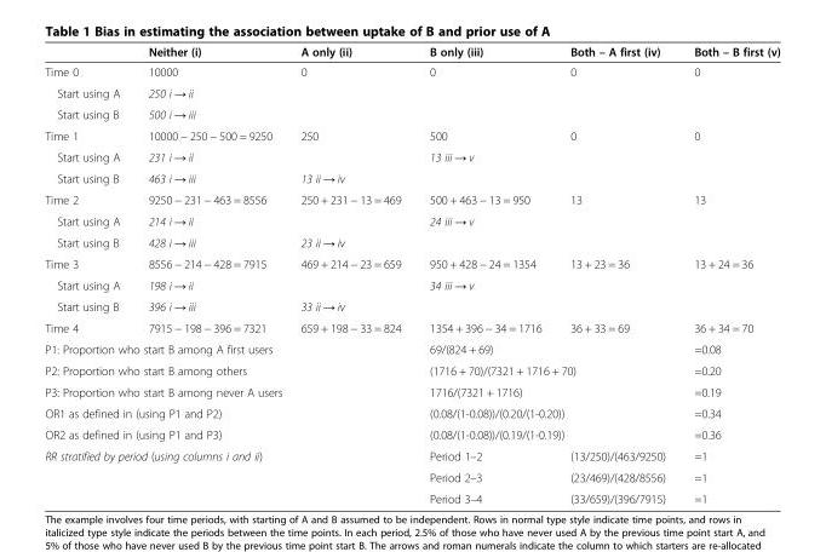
<table><thead><tr><td></td><td>Neither (i)</td><td>A only (ii)</td><td>B only (iii)</td><td>Both – A first (iv)</td><td>Both – B first (v)</td></tr></thead><tbody><tr><td>Time 0</td><td>10000</td><td>0</td><td>0</td><td>0</td><td>0</td></tr><tr><td>Start using A</td><td>250 i → ii</td><td></td><td></td><td></td><td></td></tr><tr><td>Start using B</td><td>500 i → iii</td><td></td><td></td><td></td><td></td></tr><tr><td>Time 1</td><td>10000 − 250 − 500 = 9250</td><td>250</td><td>500</td><td>0</td><td>0</td></tr><tr><td>Start using A</td><td>231 i → ii</td><td></td><td>13 iii → v</td><td></td><td></td></tr><tr><td>Start using B</td><td>463 i → iii</td><td>13 ii → iv</td><td></td><td></td><td></td></tr><tr><td>Time 2</td><td>9250 − 231 − 463 = 8556</td><td>250 + 231 − 13 = 469</td><td>500 + 463 − 13 = 950</td><td>13</td><td>13</td></tr><tr><td>Start using A</td><td>214 i → ii</td><td></td><td>24 iii → v</td><td></td><td></td></tr><tr><td>Start using B</td><td>428 i → iii</td><td>23 ii → iv</td><td></td><td></td><td></td></tr><tr><td>Time 3</td><td>8556 − 214 − 428 = 7915</td><td>469 + 214 − 23 = 659</td><td>950 + 428 − 24 = 1354</td><td>13 + 23 = 36</td><td>13 + 24 = 36</td></tr><tr><td>Start using A</td><td>198 i → ii</td><td></td><td>34 iii → v</td><td></td><td></td></tr><tr><td>Start using B</td><td>396 i → iii</td><td>33 ii → iv</td><td></td><td></td><td></td></tr><tr><td>Time 4</td><td>7915 − 198 − 396 = 7321</td><td>659 + 198 − 33 = 824</td><td>1354 + 396 − 34 = 1716</td><td>36 + 33 = 69</td><td>36 + 34 = 70</td></tr><tr><td colspan="3">P1: Proportion who start B among A first users</td><td colspan="2">69/(824 + 69)</td><td>=0.08</td></tr><tr><td colspan="3">P2: Proportion who start B among others</td><td colspan="2">(1716 + 70)/(7321 + 1716 + 70)</td><td>=0.20</td></tr><tr><td colspan="3">P3: Proportion who start B among never A users</td><td colspan="2">1716/(7321 + 1716)</td><td>=0.19</td></tr><tr><td colspan="3">OR1 as defined in (using P1 and P2)</td><td colspan="2">(0.08/(1-0.08))/(0.20/(1-0.20))</td><td>=0.34</td></tr><tr><td colspan="3">OR2 as defined in (using P1 and P3)</td><td colspan="2">(0.08/(1-0.08))/(0.19/(1-0.19))</td><td>=0.36</td></tr><tr><td rowspan="3" colspan="3">RR stratified by period (using columns i and ii)</td><td>Period 1–2</td><td>(13/250)/(463/9250)</td><td>=1</td></tr><tr><td>Period 2–3</td><td>(23/469)/(428/8556)</td><td>=1</td></tr><tr><td>Period 3–4</td><td>(33/659)/(396/7915)</td><td>=1</td></tr></tbody></table>